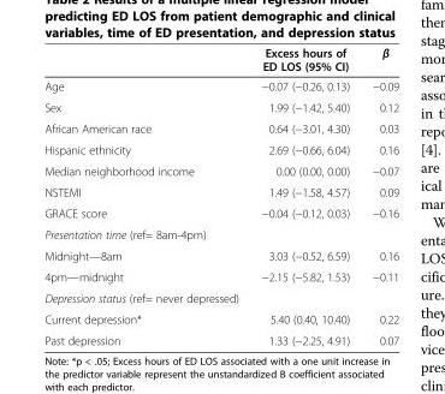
<table><thead><tr><td></td><td>Excess hours of ED LOS (95% CI)</td><td>β</td></tr></thead><tbody><tr><td>Age</td><td>−0.07 (−0.26, 0.13)</td><td>−0.09</td></tr><tr><td>Sex</td><td>1.99 (−1.42, 5.40)</td><td>0.12</td></tr><tr><td>African American race</td><td>0.64 (−3.01, 4.30)</td><td>0.03</td></tr><tr><td>Hispanic ethnicity</td><td>2.69 (−0.66, 6.04)</td><td>0.16</td></tr><tr><td>Median neighborhood income</td><td>0.00 (0.00, 0.00)</td><td>−0.07</td></tr><tr><td>NSTEMI</td><td>1.49 (−1.58, 4.57)</td><td>0.09</td></tr><tr><td>GRACE score</td><td>−0.04 (−0.12, 0.03)</td><td>−0.16</td></tr><tr><td colspan="3">Presentation time (ref= 8am-4pm)</td></tr><tr><td>Midnight—8am</td><td>3.03 (−0.52, 6.59)</td><td>0.16</td></tr><tr><td>4pm—midnight</td><td>−2.15 (−5.82, 1.53)</td><td>−0.11</td></tr><tr><td colspan="3">Depression status (ref= never depressed)</td></tr><tr><td>Current depression*</td><td>5.40 (0.40, 10.40)</td><td>0.22</td></tr><tr><td>Past depression</td><td>1.33 (−2.25, 4.91)</td><td>0.07</td></tr></tbody></table>